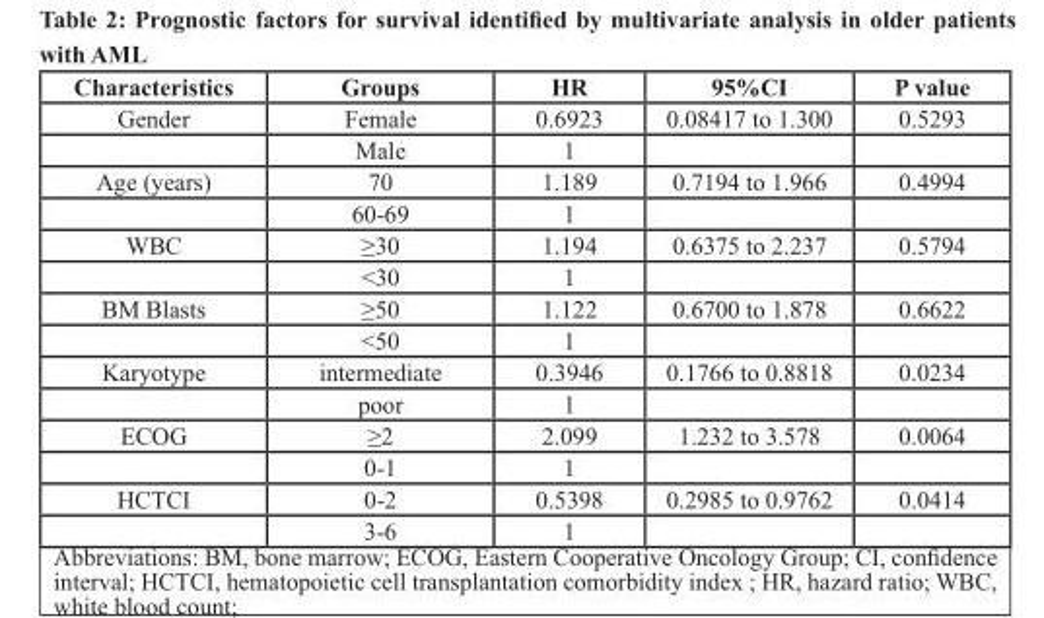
<table><thead><tr><td>Characteristics</td><td>Groups</td><td>HR</td><td>95%CI</td><td>P value</td></tr></thead><tbody><tr><td rowspan="2">Gender</td><td>Female</td><td>0.6923</td><td>0.08417 to 1.300</td><td>0.5293</td></tr><tr><td>Male</td><td>1</td><td></td><td></td></tr><tr><td rowspan="2">Age (years)</td><td>70</td><td>1.189</td><td>0.7194 to 1.966</td><td>0.4994</td></tr><tr><td>60-69</td><td>1</td><td></td><td></td></tr><tr><td rowspan="2">WBC</td><td>≥30</td><td>1.194</td><td>0.6375 to 2.237</td><td>0.5794</td></tr><tr><td>˂30</td><td>1</td><td></td><td></td></tr><tr><td rowspan="2">BM Blasts</td><td>≥50</td><td>1.122</td><td>0.6700 to 1.878</td><td>0.6622</td></tr><tr><td>˂50</td><td>1</td><td></td><td></td></tr><tr><td rowspan="2">Karyotype</td><td>intermediate</td><td>0.3946</td><td>0.1766 to 0.8818</td><td>0.0234</td></tr><tr><td>poor</td><td>1</td><td></td><td></td></tr><tr><td rowspan="2">ECOG</td><td>≥2</td><td>2.099</td><td>1.232 to 3.578</td><td>0.0064</td></tr><tr><td>0-1</td><td>1</td><td></td><td></td></tr><tr><td rowspan="2">HCTCI</td><td>0-2</td><td>0.5398</td><td>0.2985 to 0.9762</td><td>0.0414</td></tr><tr><td>3-6</td><td>1</td><td></td><td></td></tr></tbody></table>